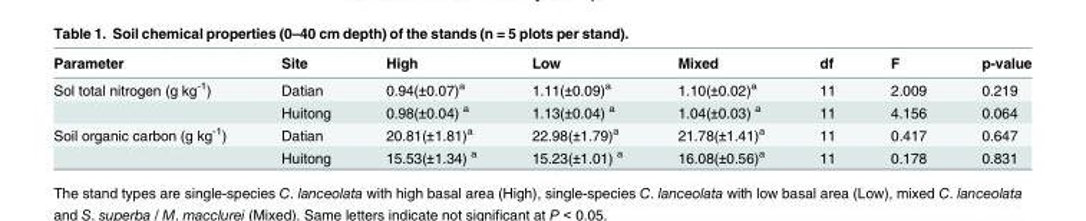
<table><thead><tr><td>Parameter</td><td>Site</td><td>High</td><td>Low</td><td>Mixed</td><td>df</td><td>F</td><td>p-value</td></tr></thead><tbody><tr><td rowspan="2">Sol total nitrogen (g kg<sup>-1</sup>)</td><td>Datian</td><td>0.94(±0.07)<sup>a</sup></td><td>1.11(±0.09)<sup>a</sup></td><td>1.10(±0.02)<sup>a</sup></td><td>11</td><td>2.009</td><td>0.219</td></tr><tr><td>Huitong</td><td>0.98(±0.04) <sup>a</sup></td><td>1.13(±0.04) <sup>a</sup></td><td>1.04(±0.03) <sup>a</sup></td><td>11</td><td>4.156</td><td>0.064</td></tr><tr><td rowspan="2">Soil organic carbon (g kg<sup>-1</sup>)</td><td>Datian</td><td>20.81(±1.81)<sup>a</sup></td><td>22.98(±1.79)<sup>a</sup></td><td>21.78(±1.41)<sup>a</sup></td><td>11</td><td>0.417</td><td>0.647</td></tr><tr><td>Huitong</td><td>15.53(±1.34) <sup>a</sup></td><td>15.23(±1.01) <sup>a</sup></td><td>16.08(±0.56)<sup>a</sup></td><td>11</td><td>0.178</td><td>0.831</td></tr></tbody></table>